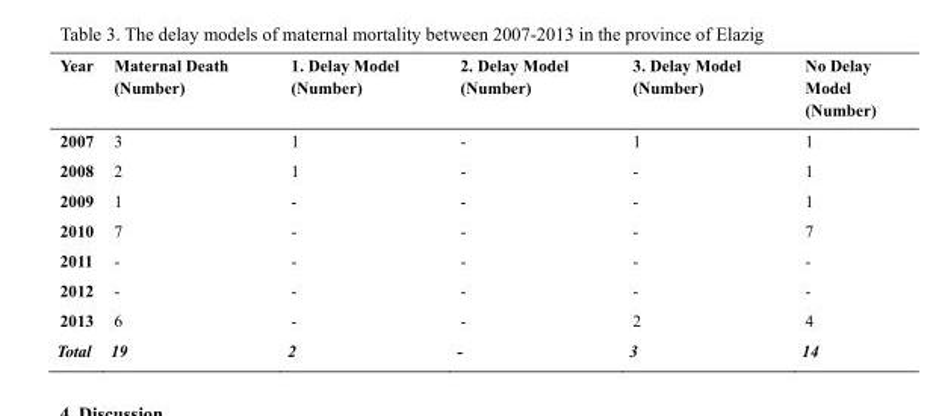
<table><thead><tr><td>Year</td><td>Maternal Death (Number)</td><td>1. Delay Model (Number)</td><td>2. Delay Model (Number)</td><td>3. Delay Model (Number)</td><td>No Delay Model (Number)</td></tr></thead><tbody><tr><td>2007</td><td>3</td><td>1</td><td>-</td><td>1</td><td>1</td></tr><tr><td>2008</td><td>2</td><td>1</td><td>-</td><td>-</td><td>1</td></tr><tr><td>2009</td><td>1</td><td>-</td><td>-</td><td>-</td><td>1</td></tr><tr><td>2010</td><td>7</td><td>-</td><td>-</td><td>-</td><td>7</td></tr><tr><td>2011</td><td>-</td><td>-</td><td>-</td><td>-</td><td>-</td></tr><tr><td>2012</td><td>-</td><td>-</td><td>-</td><td>-</td><td>-</td></tr><tr><td>2013</td><td>6</td><td>-</td><td>-</td><td>2</td><td>4</td></tr><tr><td>Total</td><td>19</td><td>2</td><td>-</td><td>3</td><td>14</td></tr></tbody></table>